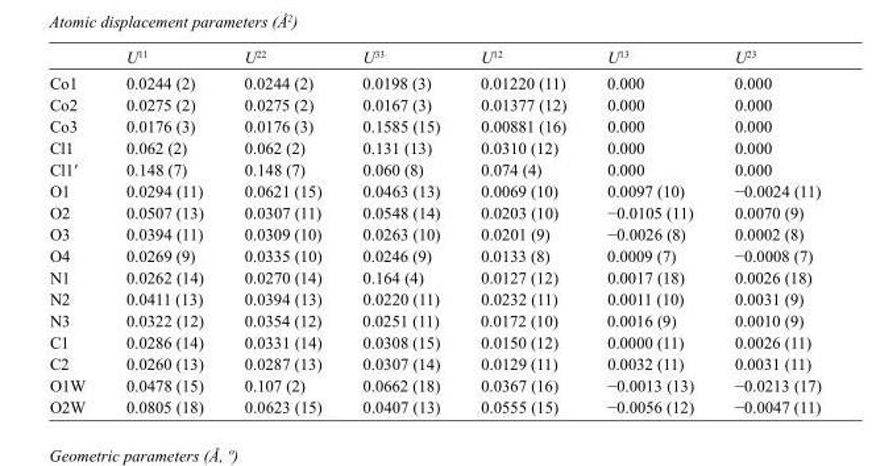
<table><thead><tr><td></td><td>U<sup>11</sup></td><td>U<sup>22</sup></td><td>U<sup>33</sup></td><td>U<sup>12</sup></td><td>U<sup>13</sup></td><td>U<sup>23</sup></td></tr></thead><tbody><tr><td>Co1</td><td>0.0244 (2)</td><td>0.0244 (2)</td><td>0.0198 (3)</td><td>0.01220 (11)</td><td>0.000</td><td>0.000</td></tr><tr><td>Co2</td><td>0.0275 (2)</td><td>0.0275 (2)</td><td>0.0167 (3)</td><td>0.01377 (12)</td><td>0.000</td><td>0.000</td></tr><tr><td>Co3</td><td>0.0176 (3)</td><td>0.0176 (3)</td><td>0.1585 (15)</td><td>0.00881 (16)</td><td>0.000</td><td>0.000</td></tr><tr><td>Cl1</td><td>0.062 (2)</td><td>0.062 (2)</td><td>0.131 (13)</td><td>0.0310 (12)</td><td>0.000</td><td>0.000</td></tr><tr><td>Cl1′</td><td>0.148 (7)</td><td>0.148 (7)</td><td>0.060 (8)</td><td>0.074 (4)</td><td>0.000</td><td>0.000</td></tr><tr><td>O1</td><td>0.0294 (11)</td><td>0.0621 (15)</td><td>0.0463 (13)</td><td>0.0069 (10)</td><td>0.0097 (10)</td><td>−0.0024 (11)</td></tr><tr><td>O2</td><td>0.0507 (13)</td><td>0.0307 (11)</td><td>0.0548 (14)</td><td>0.0203 (10)</td><td>−0.0105 (11)</td><td>0.0070 (9)</td></tr><tr><td>O3</td><td>0.0394 (11)</td><td>0.0309 (10)</td><td>0.0263 (10)</td><td>0.0201 (9)</td><td>−0.0026 (8)</td><td>0.0002 (8)</td></tr><tr><td>O4</td><td>0.0269 (9)</td><td>0.0335 (10)</td><td>0.0246 (9)</td><td>0.0133 (8)</td><td>0.0009 (7)</td><td>−0.0008 (7)</td></tr><tr><td>N1</td><td>0.0262 (14)</td><td>0.0270 (14)</td><td>0.164 (4)</td><td>0.0127 (12)</td><td>0.0017 (18)</td><td>0.0026 (18)</td></tr><tr><td>N2</td><td>0.0411 (13)</td><td>0.0394 (13)</td><td>0.0220 (11)</td><td>0.0232 (11)</td><td>0.0011 (10)</td><td>0.0031 (9)</td></tr><tr><td>N3</td><td>0.0322 (12)</td><td>0.0354 (12)</td><td>0.0251 (11)</td><td>0.0172 (10)</td><td>0.0016 (9)</td><td>0.0010 (9)</td></tr><tr><td>C1</td><td>0.0286 (14)</td><td>0.0331 (14)</td><td>0.0308 (15)</td><td>0.0150 (12)</td><td>0.0000 (11)</td><td>0.0026 (11)</td></tr><tr><td>C2</td><td>0.0260 (13)</td><td>0.0287 (13)</td><td>0.0307 (14)</td><td>0.0129 (11)</td><td>0.0032 (11)</td><td>0.0031 (11)</td></tr><tr><td>O1W</td><td>0.0478 (15)</td><td>0.107 (2)</td><td>0.0662 (18)</td><td>0.0367 (16)</td><td>−0.0013 (13)</td><td>−0.0213 (17)</td></tr><tr><td>O2W</td><td>0.0805 (18)</td><td>0.0623 (15)</td><td>0.0407 (13)</td><td>0.0555 (15)</td><td>−0.0056 (12)</td><td>−0.0047 (11)</td></tr></tbody></table>